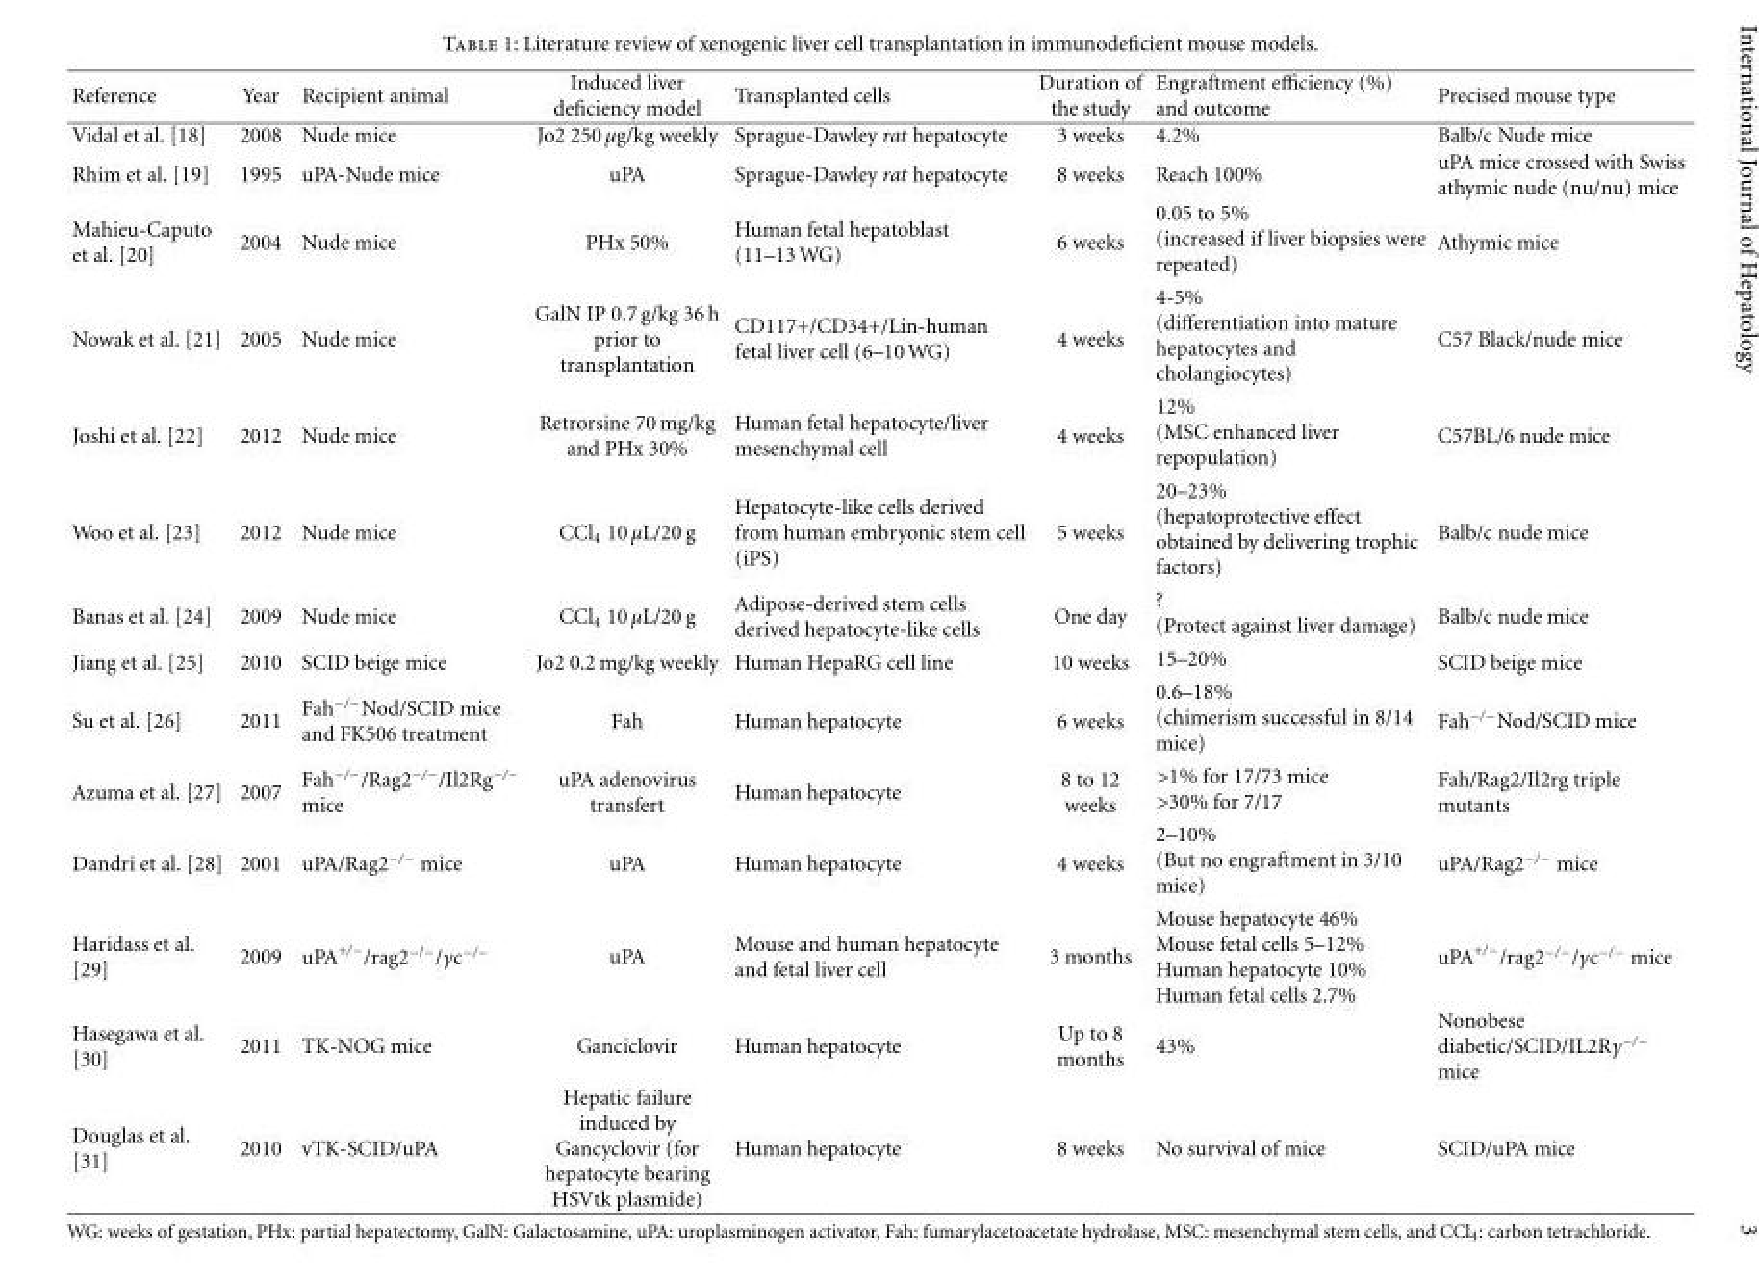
<table><thead><tr><td>Reference</td><td>Year</td><td>Recipient animal</td><td>Induced liver deficiency model</td><td>Transplanted cells</td><td>Duration of the study</td><td>Engraftment efficiency (%) and outcome</td><td>Precised mouse type</td></tr></thead><tbody><tr><td>Vidal et al. [18]</td><td>2008</td><td>Nude mice</td><td>Jo2 250 μg/kg weekly</td><td>Sprague-Dawley rat hepatocyte</td><td>3 weeks</td><td>4.2%</td><td>Balb/c Nude mice</td></tr><tr><td>Rhim et al. [19]</td><td>1995</td><td>uPA-Nude mice</td><td>uPA</td><td>Sprague-Dawley rat hepatocyte</td><td>8 weeks</td><td>Reach 100%</td><td>uPA mice crossed with Swiss athymic nude (nu/nu) mice</td></tr><tr><td>Mahieu-Caputo et al. [20]</td><td>2004</td><td>Nude mice</td><td>PHx 50%</td><td>Human fetal hepatoblast (11–13 WG)</td><td>6 weeks</td><td>0.05 to 5% (increased if liver biopsies were repeated)</td><td>Athymic mice</td></tr><tr><td>Nowak et al. [21]</td><td>2005</td><td>Nude mice</td><td>GalN IP 0.7 g/kg 36 h prior to transplantation</td><td>CD117+/CD34+/Lin-human fetal liver cell (6–10 WG)</td><td>4 weeks</td><td>4-5% (differentiation into mature hepatocytes and cholangiocytes)</td><td>C57 Black/nude mice</td></tr><tr><td>Joshi et al. [22]</td><td>2012</td><td>Nude mice</td><td>Retrorsine 70 mg/kg and PHx 30%</td><td>Human fetal hepatocyte/liver mesenchymal cell</td><td>4 weeks</td><td>12% (MSC enhanced liver repopulation)</td><td>C57BL/6 nude mice</td></tr><tr><td>Woo et al. [23]</td><td>2012</td><td>Nude mice</td><td>CCl<sub>4</sub> 10 μL/20 g</td><td>Hepatocyte-like cells derived from human embryonic stem cell (iPS)</td><td>5 weeks</td><td>20–23% (hepatoprotective effect obtained by delivering trophic factors)</td><td>Balb/c nude mice</td></tr><tr><td>Banas et al. [24]</td><td>2009</td><td>Nude mice</td><td>CCl<sub>4</sub> 10 μL/20 g</td><td>Adipose-derived stem cells derived hepatocyte-like cells</td><td>One day</td><td>? (Protect against liver damage)</td><td>Balb/c nude mice</td></tr><tr><td>Jiang et al. [25]</td><td>2010</td><td>SCID beige mice</td><td>Jo2 0.2 mg/kg weekly</td><td>Human HepaRG cell line</td><td>10 weeks</td><td>15–20%</td><td>SCID beige mice</td></tr><tr><td>Su et al. [26]</td><td>2011</td><td>Fah<sup>−/−</sup>Nod/SCID mice and FK506 treatment</td><td>Fah</td><td>Human hepatocyte</td><td>6 weeks</td><td>0.6–18% (chimerism successful in 8/14 mice)</td><td>Fah<sup>−/−</sup>Nod/SCID mice</td></tr><tr><td>Azuma et al. [27]</td><td>2007</td><td>Fah<sup>−/−</sup>/Rag2<sup>−/−</sup>/Il2Rg<sup>−/−</sup> mice</td><td>uPA adenovirus transfert</td><td>Human hepatocyte</td><td>8 to 12 weeks</td><td>&gt;1% for 17/73 mice &gt;30% for 7/17</td><td>Fah/Rag2/Il2rg triple mutants</td></tr><tr><td>Dandri et al. [28]</td><td>2001</td><td>uPA/Rag2<sup>−/−</sup> mice</td><td>uPA</td><td>Human hepatocyte</td><td>4 weeks</td><td>2–10% (But no engraftment in 3/10 mice)</td><td>uPA/Rag2<sup>−/−</sup> mice</td></tr><tr><td>Haridass et al. [29]</td><td>2009</td><td>uPA<sup>+/−</sup>/rag2<sup>−/−</sup>/γc<sup>−/−</sup></td><td>uPA</td><td>Mouse and human hepatocyte and fetal liver cell</td><td>3 months</td><td>Mouse hepatocyte 46% Mouse fetal cells 5–12% Human hepatocyte 10% Human fetal cells 2.7%</td><td>uPA<sup>+/−</sup>/rag2<sup>−/−</sup>/γc<sup>−/−</sup> mice</td></tr><tr><td>Hasegawa et al. [30]</td><td>2011</td><td>TK-NOG mice</td><td>Ganciclovir</td><td>Human hepatocyte</td><td>Up to 8 months</td><td>43%</td><td>Nonobese diabetic/SCID/IL2Rγ<sup>−/−</sup> mice</td></tr><tr><td>Douglas et al. [31]</td><td>2010</td><td>vTK-SCID/uPA</td><td>Hepatic failure induced by Gancyclovir (for hepatocyte bearing HSVtk plasmide)</td><td>Human hepatocyte</td><td>8 weeks</td><td>No survival of mice</td><td>SCID/uPA mice</td></tr></tbody></table>